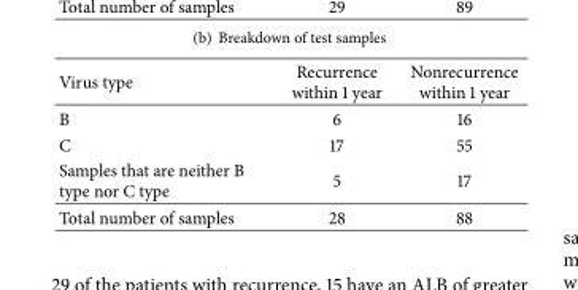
<table><thead><tr><td>Virus type</td><td>Recurrence within 1 year</td><td>Nonrecurrence within 1 year</td></tr></thead><tbody><tr><td>B</td><td>6</td><td>16</td></tr><tr><td>C</td><td>17</td><td>55</td></tr><tr><td>Samples that are neither B type nor C type</td><td>5</td><td>17</td></tr><tr><td>Total number of samples</td><td>28</td><td>88</td></tr></tbody></table>